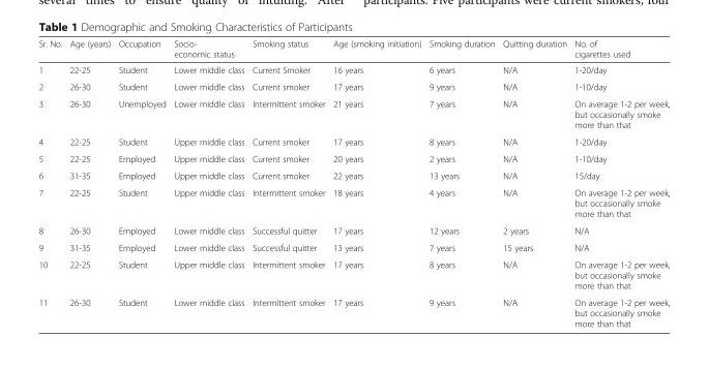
<table><thead><tr><td>Sr. No.</td><td>Age (years)</td><td>Occupation</td><td>Socio- economic status</td><td>Smoking status</td><td>Age (smoking initiation)</td><td>Smoking duration</td><td>Quitting duration</td><td>No. of cigarettes used</td></tr></thead><tbody><tr><td>1</td><td>22-25</td><td>Student</td><td>Lower middle class</td><td>Current Smoker</td><td>16 years</td><td>6 years</td><td>N/A</td><td>1-20/day</td></tr><tr><td>2</td><td>26-30</td><td>Student</td><td>Lower middle class</td><td>Current smoker</td><td>17 years</td><td>9 years</td><td>N/A</td><td>1-10/day</td></tr><tr><td>3</td><td>26-30</td><td>Unemployed</td><td>Lower middle class</td><td>Intermittent smoker</td><td>21 years</td><td>7 years</td><td>N/A</td><td>On average 1-2 per week, but occasionally smoke more than that</td></tr><tr><td>4</td><td>22-25</td><td>Student</td><td>Upper middle class</td><td>Current smoker</td><td>17 years</td><td>8 years</td><td>N/A</td><td>1-20/day</td></tr><tr><td>5</td><td>22-25</td><td>Employed</td><td>Upper middle class</td><td>Current smoker</td><td>20 years</td><td>2 years</td><td>N/A</td><td>1-10/day</td></tr><tr><td>6</td><td>31-35</td><td>Employed</td><td>Upper middle class</td><td>Current smoker</td><td>22 years</td><td>13 years</td><td>N/A</td><td>15/day</td></tr><tr><td>7</td><td>22-25</td><td>Student</td><td>Upper middle class</td><td>Intermittent smoker</td><td>18 years</td><td>4 years</td><td>N/A</td><td>On average 1-2 per week, but occasionally smoke more than that</td></tr><tr><td>8</td><td>26-30</td><td>Employed</td><td>Lower middle class</td><td>Successful quitter</td><td>17 years</td><td>12 years</td><td>2 years</td><td>N/A</td></tr><tr><td>9</td><td>31-35</td><td>Employed</td><td>Lower middle class</td><td>Successful quitter</td><td>13 years</td><td>7 years</td><td>15 years</td><td>N/A</td></tr><tr><td>10</td><td>22-25</td><td>Student</td><td>Upper middle class</td><td>Intermittent smoker</td><td>17 years</td><td>8 years</td><td>N/A</td><td>On average 1-2 per week, but occasionally smoke more than that</td></tr><tr><td>11</td><td>26-30</td><td>Student</td><td>Lower middle class</td><td>Intermittent smoker</td><td>17 years</td><td>9 years</td><td>N/A</td><td>On average 1-2 per week, but occasionally smoke more than that</td></tr></tbody></table>